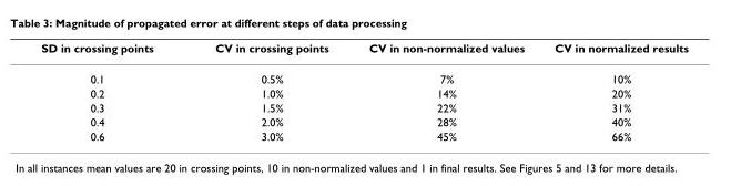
<table><thead><tr><td>SD in crossing points</td><td>CV in crossing points</td><td>CV in non-normalized values</td><td>CV in normalized results</td></tr></thead><tbody><tr><td>0.1</td><td>0.5%</td><td>7%</td><td>10%</td></tr><tr><td>0.2</td><td>1.0%</td><td>14%</td><td>20%</td></tr><tr><td>0.3</td><td>1.5%</td><td>22%</td><td>31%</td></tr><tr><td>0.4</td><td>2.0%</td><td>28%</td><td>40%</td></tr><tr><td>0.6</td><td>3.0%</td><td>45%</td><td>66%</td></tr></tbody></table>